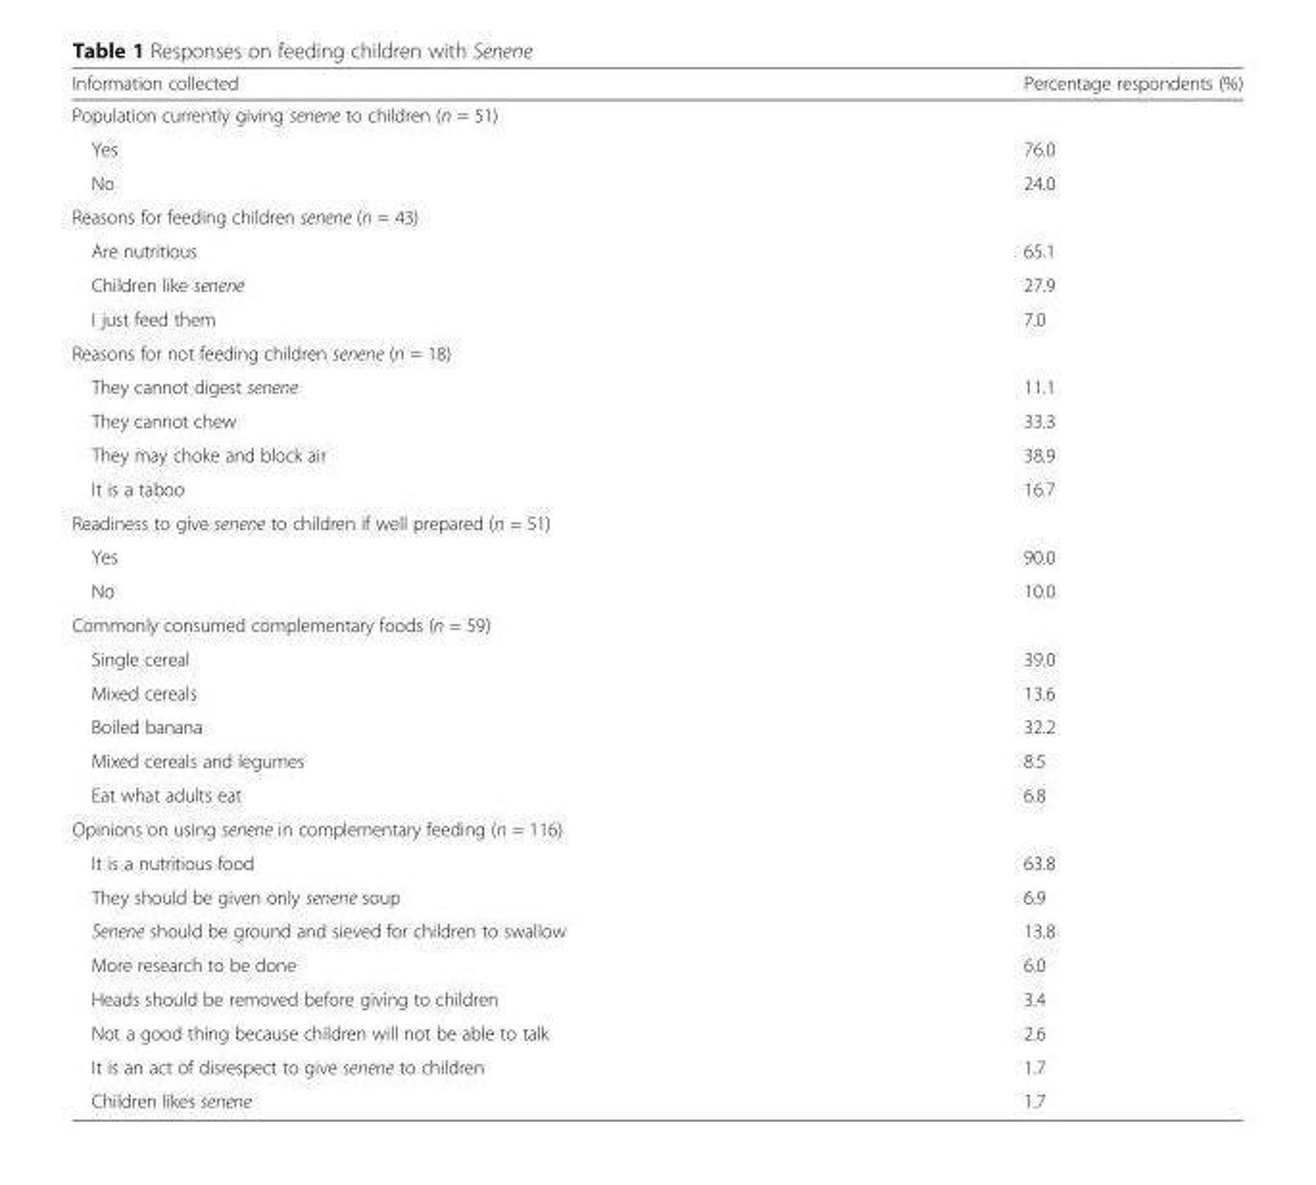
<table><thead><tr><td>Information collected</td><td>Percentage respondents (%)</td></tr></thead><tbody><tr><td colspan="2">Population currently giving senene to children (n = 51)</td></tr><tr><td>Yes</td><td>76.0</td></tr><tr><td>No</td><td>24.0</td></tr><tr><td colspan="2">Reasons for feeding children senene (n = 43)</td></tr><tr><td>Are nutritious</td><td>65.1</td></tr><tr><td>Children like senene</td><td>27.9</td></tr><tr><td>I just feed them</td><td>7.0</td></tr><tr><td colspan="2">Reasons for not feeding children senene (n = 18)</td></tr><tr><td>They cannot digest senene</td><td>11.1</td></tr><tr><td>They cannot chew</td><td>33.3</td></tr><tr><td>They may choke and block air</td><td>38.9</td></tr><tr><td>It is a taboo</td><td>16.7</td></tr><tr><td colspan="2">Readiness to give senene to children if well prepared (n = 51)</td></tr><tr><td>Yes</td><td>90.0</td></tr><tr><td>No</td><td>10.0</td></tr><tr><td colspan="2">Commonly consumed complementary foods (n = 59)</td></tr><tr><td>Single cereal</td><td>39.0</td></tr><tr><td>Mixed cereals</td><td>13.6</td></tr><tr><td>Boiled banana</td><td>32.2</td></tr><tr><td>Mixed cereals and legumes</td><td>8.5</td></tr><tr><td>Eat what adults eat</td><td>6.8</td></tr><tr><td colspan="2">Opinions on using senene in complementary feeding (n = 116)</td></tr><tr><td>It is a nutritious food</td><td>63.8</td></tr><tr><td>They should be given only senene soup</td><td>6.9</td></tr><tr><td>Senene should be ground and sieved for children to swallow</td><td>13.8</td></tr><tr><td>More research to be done</td><td>6.0</td></tr><tr><td>Heads should be removed before giving to children</td><td>3.4</td></tr><tr><td>Not a good thing because children will not be able to talk</td><td>2.6</td></tr><tr><td>It is an act of disrespect to give senene to children</td><td>1.7</td></tr><tr><td>Children likes senene</td><td>1.7</td></tr></tbody></table>